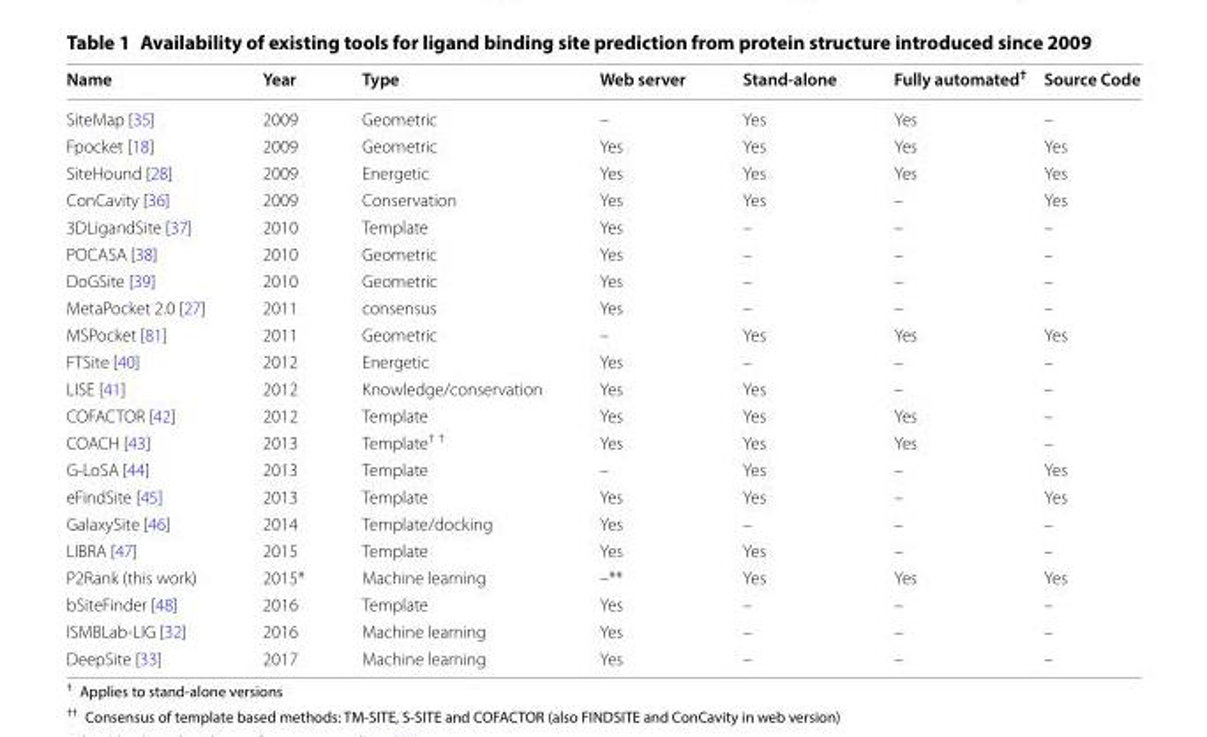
<table><thead><tr><td>Name</td><td>Year</td><td>Type</td><td>Web server</td><td>Stand-alone</td><td>Fully automated<sup>†</sup></td><td>Source Code</td></tr></thead><tbody><tr><td>SiteMap [35]</td><td>2009</td><td>Geometric</td><td>–</td><td>Yes</td><td>Yes</td><td>–</td></tr><tr><td>Fpocket [18]</td><td>2009</td><td>Geometric</td><td>Yes</td><td>Yes</td><td>Yes</td><td>Yes</td></tr><tr><td>SiteHound [28]</td><td>2009</td><td>Energetic</td><td>Yes</td><td>Yes</td><td>Yes</td><td>Yes</td></tr><tr><td>ConCavity [36]</td><td>2009</td><td>Conservation</td><td>Yes</td><td>Yes</td><td>–</td><td>Yes</td></tr><tr><td>3DLigandSite [37]</td><td>2010</td><td>Template</td><td>Yes</td><td>–</td><td>–</td><td>–</td></tr><tr><td>POCASA [38]</td><td>2010</td><td>Geometric</td><td>Yes</td><td>–</td><td>–</td><td>–</td></tr><tr><td>DoGSite [39]</td><td>2010</td><td>Geometric</td><td>Yes</td><td>–</td><td>–</td><td>–</td></tr><tr><td>MetaPocket 2.0 [27]</td><td>2011</td><td>consensus</td><td>Yes</td><td>–</td><td>–</td><td>–</td></tr><tr><td>MSPocket [81]</td><td>2011</td><td>Geometric</td><td>–</td><td>Yes</td><td>Yes</td><td>Yes</td></tr><tr><td>FTSite [40]</td><td>2012</td><td>Energetic</td><td>Yes</td><td>–</td><td>–</td><td>–</td></tr><tr><td>LISE [41]</td><td>2012</td><td>Knowledge/conservation</td><td>Yes</td><td>Yes</td><td>–</td><td>–</td></tr><tr><td>COFACTOR [42]</td><td>2012</td><td>Template</td><td>Yes</td><td>Yes</td><td>Yes</td><td>–</td></tr><tr><td>COACH [43]</td><td>2013</td><td>Template<sup>† †</sup></td><td>Yes</td><td>Yes</td><td>Yes</td><td>–</td></tr><tr><td>G-LoSA [44]</td><td>2013</td><td>Template</td><td>–</td><td>Yes</td><td>–</td><td>Yes</td></tr><tr><td>eFindSite [45]</td><td>2013</td><td>Template</td><td>Yes</td><td>Yes</td><td>–</td><td>Yes</td></tr><tr><td>GalaxySite [46]</td><td>2014</td><td>Template/docking</td><td>Yes</td><td>–</td><td>–</td><td>–</td></tr><tr><td>LIBRA [47]</td><td>2015</td><td>Template</td><td>Yes</td><td>Yes</td><td>–</td><td>–</td></tr><tr><td>P2Rank (this work)</td><td>2015*</td><td>Machine learning</td><td>–**</td><td>Yes</td><td>Yes</td><td>Yes</td></tr><tr><td>bSiteFinder [48]</td><td>2016</td><td>Template</td><td>Yes</td><td>–</td><td>–</td><td>–</td></tr><tr><td>ISMBLab-LIG [32]</td><td>2016</td><td>Machine learning</td><td>Yes</td><td>–</td><td>–</td><td>–</td></tr><tr><td>DeepSite [33]</td><td>2017</td><td>Machine learning</td><td>Yes</td><td>–</td><td>–</td><td>–</td></tr></tbody></table>